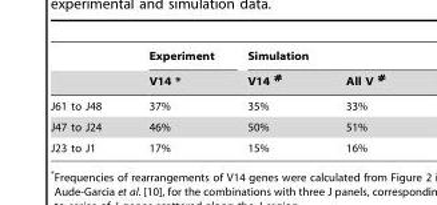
<table><thead><tr><td rowspan="2"></td><td rowspan="2">Experiment V14 *</td><td colspan="2">Simulation</td></tr><tr><td>V14 #</td><td>All V #</td></tr></thead><tbody><tr><td>J61 to J48</td><td>37%</td><td>35%</td><td>33%</td></tr><tr><td>J47 to J24</td><td>46%</td><td>50%</td><td>51%</td></tr><tr><td>J23 to J1</td><td>17%</td><td>15%</td><td>16%</td></tr></tbody></table>